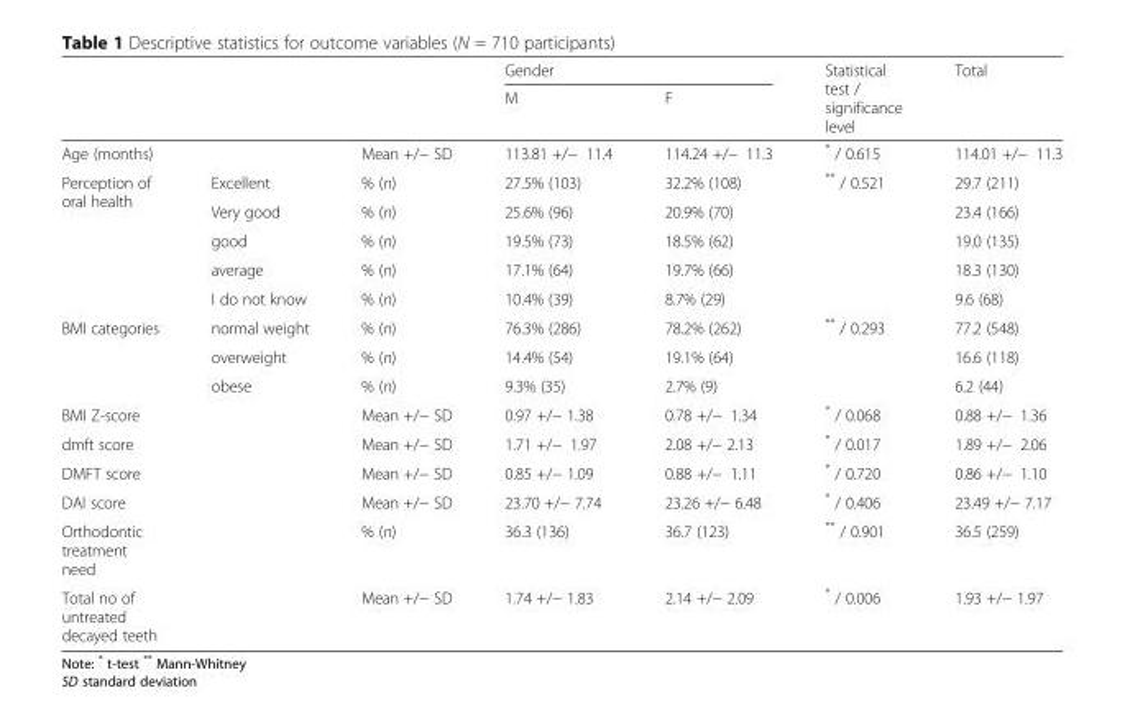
<table><thead><tr><td rowspan="2"></td><td rowspan="2"></td><td rowspan="2"></td><td colspan="2">Gender</td><td rowspan="2">Statistical test / significance level</td><td rowspan="2">Total</td></tr><tr><td>M</td><td>F</td></tr></thead><tbody><tr><td colspan="2">Age (months)</td><td>Mean +/− SD</td><td>113.81 +/− 11.4</td><td>114.24 +/− 11.3</td><td>* / 0.615</td><td>114.01 +/− 11.3</td></tr><tr><td rowspan="5">Perception of oral health</td><td>Excellent</td><td>% (n)</td><td>27.5% (103)</td><td>32.2% (108)</td><td rowspan="5">** / 0.521</td><td>29.7 (211)</td></tr><tr><td>Very good</td><td>% (n)</td><td>25.6% (96)</td><td>20.9% (70)</td><td>23.4 (166)</td></tr><tr><td>good</td><td>% (n)</td><td>19.5% (73)</td><td>18.5% (62)</td><td>19.0 (135)</td></tr><tr><td>average</td><td>% (n)</td><td>17.1% (64)</td><td>19.7% (66)</td><td>18.3 (130)</td></tr><tr><td>I do not know</td><td>% (n)</td><td>10.4% (39)</td><td>8.7% (29)</td><td>9.6 (68)</td></tr><tr><td rowspan="3">BMI categories</td><td>normal weight</td><td>% (n)</td><td>76.3% (286)</td><td>78.2% (262)</td><td>** / 0.293</td><td>77.2 (548)</td></tr><tr><td>overweight</td><td>% (n)</td><td>14.4% (54)</td><td>19.1% (64)</td><td></td><td>16.6 (118)</td></tr><tr><td>obese</td><td>% (n)</td><td>9.3% (35)</td><td>2.7% (9)</td><td></td><td>6.2 (44)</td></tr><tr><td colspan="2">BMI Z-score</td><td>Mean +/− SD</td><td>0.97 +/− 1.38</td><td>0.78 +/− 1.34</td><td>* / 0.068</td><td>0.88 +/− 1.36</td></tr><tr><td colspan="2">dmft score</td><td>Mean +/− SD</td><td>1.71 +/− 1.97</td><td>2.08 +/− 2.13</td><td>* / 0.017</td><td>1.89 +/− 2.06</td></tr><tr><td colspan="2">DMFT score</td><td>Mean +/− SD</td><td>0.85 +/− 1.09</td><td>0.88 +/− 1.11</td><td>* / 0.720</td><td>0.86 +/− 1.10</td></tr><tr><td colspan="2">DAI score</td><td>Mean +/− SD</td><td>23.70 +/− 7.74</td><td>23.26 +/− 6.48</td><td>* / 0.406</td><td>23.49 +/− 7.17</td></tr><tr><td colspan="2">Orthodontic treatment need</td><td>% (n)</td><td>36.3 (136)</td><td>36.7 (123)</td><td>** / 0.901</td><td>36.5 (259)</td></tr><tr><td colspan="2">Total no of untreated decayed teeth</td><td>Mean +/− SD</td><td>1.74 +/− 1.83</td><td>2.14 +/− 2.09</td><td>* / 0.006</td><td>1.93 +/− 1.97</td></tr></tbody></table>